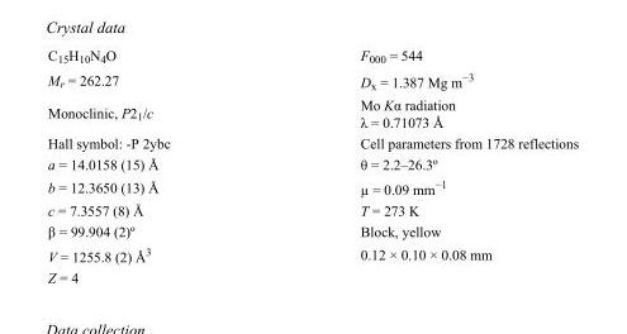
<table><tbody><tr><td>C<sub>15</sub>H<sub>10</sub>N<sub>4</sub>O</td><td>F000 = 544</td></tr><tr><td>M<sub>r</sub> = 262.27</td><td>D<sub>x</sub> = 1.387 Mg m<sup>−3</sup></td></tr><tr><td>Monoclinic, P2<sub>1</sub>/c</td><td>Mo Kα radiation λ = 0.71073 Å</td></tr><tr><td>Hall symbol: -P 2ybc</td><td>Cell parameters from 1728 reflections</td></tr><tr><td>a = 14.0158 (15) Å</td><td>θ = 2.2–26.3º</td></tr><tr><td>b = 12.3650 (13) Å</td><td>µ = 0.09 mm<sup>−1</sup></td></tr><tr><td>c = 7.3557 (8) Å</td><td>T = 273 K</td></tr><tr><td>β = 99.904 (2)º</td><td>Block, yellow</td></tr><tr><td>V = 1255.8 (2) Å<sup>3</sup></td><td>0.12 × 0.10 × 0.08 mm</td></tr><tr><td>Z = 4</td><td></td></tr></tbody></table>